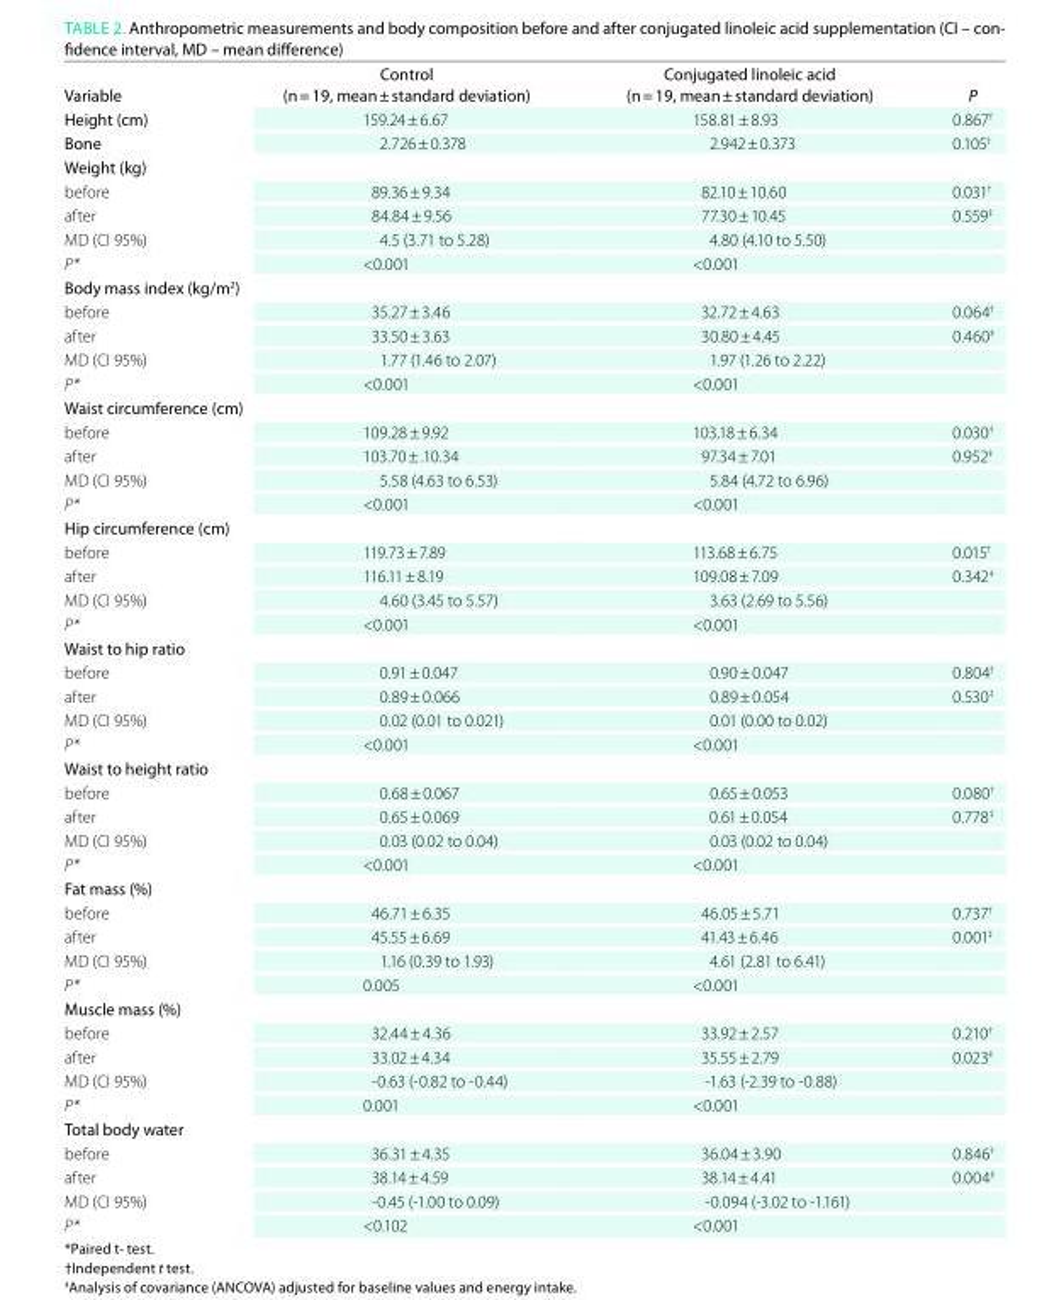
<table><thead><tr><td>Variable</td><td>control (n = 19, mean ± standard deviation)</td><td>conjugated linoleic acid (n = 19, mean ± standard deviation)</td><td>P</td></tr></thead><tbody><tr><td>Height (cm)</td><td>159.24 ± 6.67</td><td>158.81 ± 8.93</td><td>0.867<sup>†</sup></td></tr><tr><td>Bone</td><td>2.726 ± 0.378</td><td>2.942 ± 0.373</td><td>0.105<sup>†</sup></td></tr><tr><td colspan="4">Weight (kg)</td></tr><tr><td>before</td><td>89.36 ± 9.34</td><td>82.10 ± 10.60</td><td>0.031<sup>†</sup></td></tr><tr><td>after</td><td>84.84 ± 9.56</td><td>77.30 ± 10.45</td><td>0.559<sup>‡</sup></td></tr><tr><td>MD (CI 95%)</td><td>4.5 (3.71 to 5.28)</td><td>4.80 (4.10 to 5.50)</td><td></td></tr><tr><td>P*</td><td>&lt;0.001</td><td>&lt;0.001</td><td></td></tr><tr><td colspan="4">Body mass index (kg/m<sup>2</sup>)</td></tr><tr><td>before</td><td>35.27 ± 3.46</td><td>32.72 ± 4.63</td><td>0.064<sup>†</sup></td></tr><tr><td>after</td><td>33.50 ± 3.63</td><td>30.80 ± 4.45</td><td>0.460<sup>‡</sup></td></tr><tr><td>MD (CI 95%)</td><td>1.77 (1.46 to 2.07)</td><td>1.97 (1.26 to 2.22)</td><td></td></tr><tr><td>P*</td><td>&lt;0.001</td><td>&lt;0.001</td><td></td></tr><tr><td colspan="4">Waist circumference (cm)</td></tr><tr><td>before</td><td>109.28 ± 9.92</td><td>103.18 ± 6.34</td><td>0.030<sup>†</sup></td></tr><tr><td>after</td><td>103.70 ± .10.34</td><td>97.34 ± 7.01</td><td>0.952<sup>‡</sup></td></tr><tr><td>MD (CI 95%)</td><td>5.58 (4.63 to 6.53)</td><td>5.84 (4.72 to 6.96)</td><td></td></tr><tr><td>P*</td><td>&lt;0.001</td><td>&lt;0.001</td><td></td></tr><tr><td colspan="4">Hip circumference (cm)</td></tr><tr><td>before</td><td>119.73 ± 7.89</td><td>113.68 ± 6.75</td><td>0.015<sup>†</sup></td></tr><tr><td>after</td><td>116.11 ± 8.19</td><td>109.08 ± 7.09</td><td>0.342<sup>‡</sup></td></tr><tr><td>MD (CI 95%)</td><td>4.60 (3.45 to 5.57)</td><td>3.63 (2.69 to 5.56)</td><td></td></tr><tr><td>P*</td><td>&lt;0.001</td><td>&lt;0.001</td><td></td></tr><tr><td colspan="4">Waist to hip ratio</td></tr><tr><td>before</td><td>0.91 ± 0.047</td><td>0.90 ± 0.047</td><td>0.804<sup>†</sup></td></tr><tr><td>after</td><td>0.89 ± 0.066</td><td>0.89 ± 0.054</td><td>0.530<sup>‡</sup></td></tr><tr><td>MD (CI 95%)</td><td>0.02 (0.01 to 0.021)</td><td>0.01 (0.00 to 0.02)</td><td></td></tr><tr><td>P*</td><td>&lt;0.001</td><td>&lt;0.001</td><td></td></tr><tr><td colspan="4">Waist to height ratio</td></tr><tr><td>before</td><td>0.68 ± 0.067</td><td>0.65 ± 0.053</td><td>0.080<sup>†</sup></td></tr><tr><td>after</td><td>0.65 ± 0.069</td><td>0.61 ± 0.054</td><td>0.778<sup>‡</sup></td></tr><tr><td>MD (CI 95%)</td><td>0.03 (0.02 to 0.04)</td><td>0.03 (0.02 to 0.04)</td><td></td></tr><tr><td>P*</td><td>&lt;0.001</td><td>&lt;0.001</td><td></td></tr><tr><td colspan="4">Fat mass (%)</td></tr><tr><td>before</td><td>46.71 ± 6.35</td><td>46.05 ± 5.71</td><td>0.737<sup>†</sup></td></tr><tr><td>after</td><td>45.55 ± 6.69</td><td>41.43 ± 6.46</td><td>0.001<sup>‡</sup></td></tr><tr><td>MD (CI 95%)</td><td>1.16 (0.39 to 1.93)</td><td>4.61 (2.81 to 6.41)</td><td></td></tr><tr><td>P*</td><td>0.005</td><td>&lt;0.001</td><td></td></tr><tr><td colspan="4">Muscle mass (%)</td></tr><tr><td>before</td><td>32.44 ± 4.36</td><td>33.92 ± 2.57</td><td>0.210<sup>†</sup></td></tr><tr><td>after</td><td>33.02 ± 4.34</td><td>35.55 ± 2.79</td><td>0.023<sup>‡</sup></td></tr><tr><td>MD (CI 95%)</td><td>-0.63 (-0.82 to -0.44)</td><td>-1.63 (-2.39 to -0.88)</td><td></td></tr><tr><td>P*</td><td>0.001</td><td>&lt;0.001</td><td></td></tr><tr><td colspan="4">total body water</td></tr><tr><td>before</td><td>36.31 ± 4.35</td><td>36.04 ± 3.90</td><td>0.846<sup>†</sup></td></tr><tr><td>after</td><td>38.14 ± 4.59</td><td>38.14 ± 4.41</td><td>0.004<sup>‡</sup></td></tr><tr><td>MD (CI 95%)</td><td>-0.45 (-1.00 to 0.09)</td><td>-0.094 (-3.02 to -1.161)</td><td></td></tr><tr><td>P*</td><td>&lt;0.102</td><td>&lt;0.001</td><td></td></tr></tbody></table>